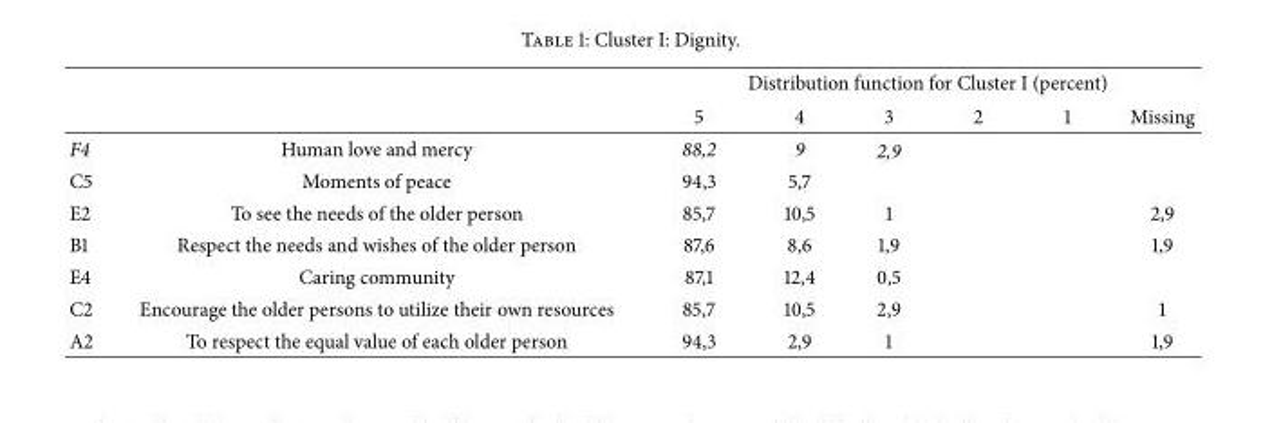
<table><thead><tr><td rowspan="2"></td><td rowspan="2"></td><td colspan="6">Distribution function for Cluster I (percent)</td></tr><tr><td>5</td><td>4</td><td>3</td><td>2</td><td>1</td><td>Missing</td></tr></thead><tbody><tr><td>F4</td><td>Human love and mercy</td><td>88,2</td><td>9</td><td>2,9</td><td></td><td></td><td></td></tr><tr><td>C5</td><td>Moments of peace</td><td>94,3</td><td>5,7</td><td></td><td></td><td></td><td></td></tr><tr><td>E2</td><td>To see the needs of the older person</td><td>85,7</td><td>10,5</td><td>1</td><td></td><td></td><td>2,9</td></tr><tr><td>B1</td><td>Respect the needs and wishes of the older person</td><td>87,6</td><td>8,6</td><td>1,9</td><td></td><td></td><td>1,9</td></tr><tr><td>E4</td><td>Caring community</td><td>87,1</td><td>12,4</td><td>0,5</td><td></td><td></td><td></td></tr><tr><td>C2</td><td>Encourage the older persons to utilize their own resources</td><td>85,7</td><td>10,5</td><td>2,9</td><td></td><td></td><td>1</td></tr><tr><td>A2</td><td>To respect the equal value of each older person</td><td>94,3</td><td>2,9</td><td>1</td><td></td><td></td><td>1,9</td></tr></tbody></table>